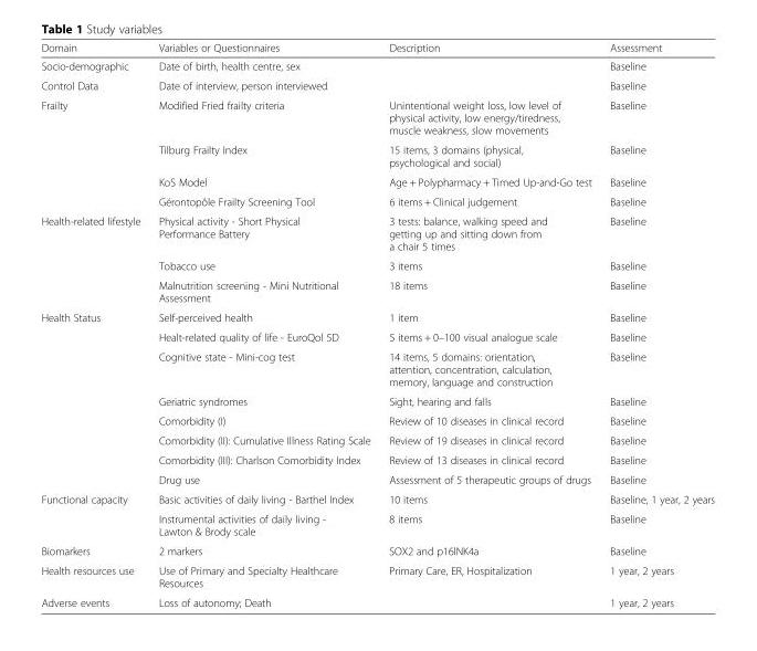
<table><thead><tr><td>Domain</td><td>Variables or Questionnaires</td><td>Description</td><td>Assessment</td></tr></thead><tbody><tr><td>Socio-demographic</td><td colspan="2">Date of birth, health centre, sex</td><td>Baseline</td></tr><tr><td>Control Data</td><td colspan="2">Date of interview, person interviewed</td><td>Baseline</td></tr><tr><td rowspan="4">Frailty</td><td>Modified Fried frailty criteria</td><td>Unintentional weight loss, low level of physical activity, low energy/tiredness, muscle weakness, slow movements</td><td>Baseline</td></tr><tr><td>Tilburg Frailty Index</td><td>15 items, 3 domains (physical, psychological and social)</td><td>Baseline</td></tr><tr><td>KoS Model</td><td>Age + Polypharmacy + Timed Up-and-Go test</td><td>Baseline</td></tr><tr><td>Gérontopôle Frailty Screening Tool</td><td>6 items + Clinical judgement</td><td>Baseline</td></tr><tr><td rowspan="3">Health-related lifestyle</td><td>Physical activity - Short Physical Performance Battery</td><td>3 tests: balance, walking speed and getting up and sitting down from a chair 5 times</td><td>Baseline</td></tr><tr><td>Tobacco use</td><td>3 items</td><td>Baseline</td></tr><tr><td>Malnutrition screening - Mini Nutritional Assessment</td><td>18 items</td><td>Baseline</td></tr><tr><td rowspan="8">Health Status</td><td>Self-perceived health</td><td>1 item</td><td>Baseline</td></tr><tr><td>Healt-related quality of life - EuroQol 5D</td><td>5 items + 0–100 visual analogue scale</td><td>Baseline</td></tr><tr><td>Cognitive state - Mini-cog test</td><td>14 items, 5 domains: orientation, attention, concentration, calculation, memory, language and construction</td><td>Baseline</td></tr><tr><td>Geriatric syndromes</td><td>Sight, hearing and falls</td><td>Baseline</td></tr><tr><td>Comorbidity (I)</td><td>Review of 10 diseases in clinical record</td><td>Baseline</td></tr><tr><td>Comorbidity (II): Cumulative Illness Rating Scale</td><td>Review of 19 diseases in clinical record</td><td>Baseline</td></tr><tr><td>Comorbidity (III): Charlson Comorbidity Index</td><td>Review of 13 diseases in clinical record</td><td>Baseline</td></tr><tr><td>Drug use</td><td>Assessment of 5 therapeutic groups of drugs</td><td>Baseline</td></tr><tr><td rowspan="2">Functional capacity</td><td>Basic activities of daily living - Barthel Index</td><td>10 items</td><td>Baseline, 1 year, 2 years</td></tr><tr><td>Instrumental activities of daily living - Lawton &amp; Brody scale</td><td>8 items</td><td>Baseline</td></tr><tr><td>Biomarkers</td><td>2 markers</td><td>SOX2 and p16lNK4a</td><td>Baseline</td></tr><tr><td>Health resources use</td><td>Use of Primary and Specialty Healthcare Resources</td><td>Primary Care, ER, Hospitalization</td><td>1 year, 2 years</td></tr><tr><td>Adverse events</td><td colspan="2">Loss of autonomy; Death</td><td>1 year, 2 years</td></tr></tbody></table>